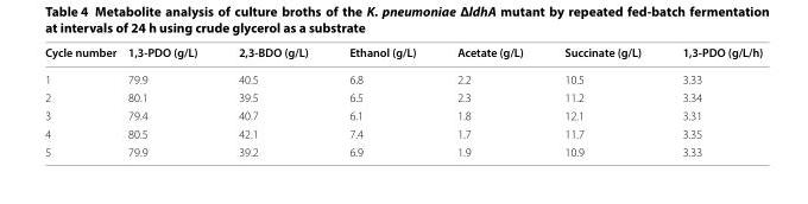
<table><thead><tr><td>Cycle number</td><td>1,3‑PDO (g/L)</td><td>2,3‑BDO (g/L)</td><td>Ethanol (g/L)</td><td>Acetate (g/L)</td><td>Succinate (g/L)</td><td>1,3‑PDO (g/L/h)</td></tr></thead><tbody><tr><td>1</td><td>79.9</td><td>40.5</td><td>6.8</td><td>2.2</td><td>10.5</td><td>3.33</td></tr><tr><td>2</td><td>80.1</td><td>39.5</td><td>6.5</td><td>2.3</td><td>11.2</td><td>3.34</td></tr><tr><td>3</td><td>79.4</td><td>40.7</td><td>6.1</td><td>1.8</td><td>12.1</td><td>3.31</td></tr><tr><td>4</td><td>80.5</td><td>42.1</td><td>7.4</td><td>1.7</td><td>11.7</td><td>3.35</td></tr><tr><td>5</td><td>79.9</td><td>39.2</td><td>6.9</td><td>1.9</td><td>10.9</td><td>3.33</td></tr></tbody></table>